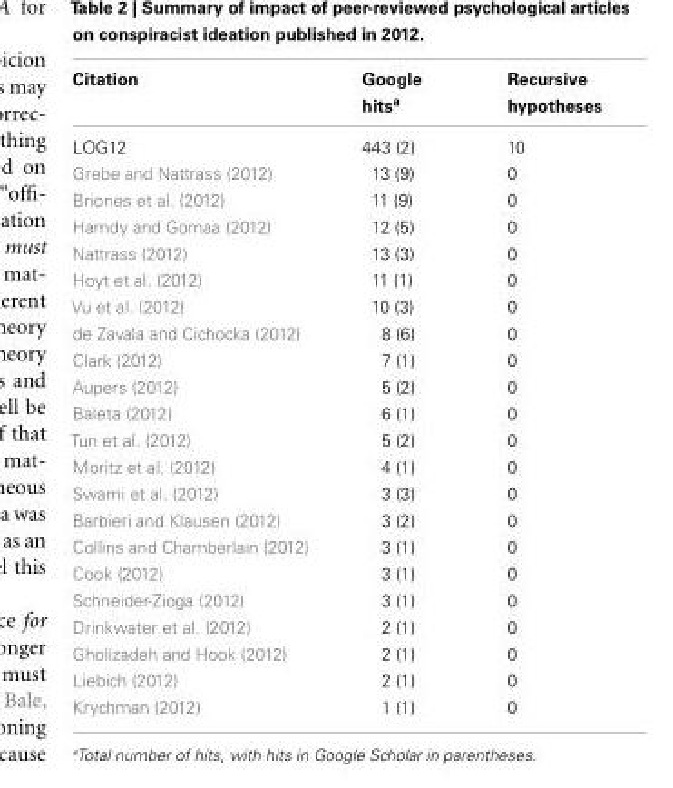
<table><thead><tr><td>Citation</td><td>Google hitsa</td><td>Recursive hypotheses</td></tr></thead><tbody><tr><td>LOG12</td><td>443 (2)</td><td>10</td></tr><tr><td>Grebe and Nattrass (2012)</td><td>13 (9)</td><td>0</td></tr><tr><td>Briones et al. (2012)</td><td>11 (9)</td><td>0</td></tr><tr><td>Hamdy and Gomaa (2012)</td><td>12 (5)</td><td>0</td></tr><tr><td>Nattrass (2012)</td><td>13 (3)</td><td>0</td></tr><tr><td>Hoyt et al. (2012)</td><td>11 (1)</td><td>0</td></tr><tr><td>Vu et al. (2012)</td><td>10 (3)</td><td>0</td></tr><tr><td>de Zavala and Cichocka (2012)</td><td>8 (6)</td><td>0</td></tr><tr><td>Clark (2012)</td><td>7 (1)</td><td>0</td></tr><tr><td>Aupers (2012)</td><td>5 (2)</td><td>0</td></tr><tr><td>Baleta (2012)</td><td>6 (1)</td><td>0</td></tr><tr><td>Tun et al. (2012)</td><td>5 (2)</td><td>0</td></tr><tr><td>Moritz et al. (2012)</td><td>4 (1)</td><td>0</td></tr><tr><td>Swami et al. (2012)</td><td>3 (3)</td><td>0</td></tr><tr><td>Barbieri and Klausen (2012)</td><td>3 (2)</td><td>0</td></tr><tr><td>Collins and Chamberlain (2012)</td><td>3 (1)</td><td>0</td></tr><tr><td>Cook (2012)</td><td>3 (1)</td><td>0</td></tr><tr><td>Schneider-Zioga (2012)</td><td>3 (1)</td><td>0</td></tr><tr><td>Drinkwater et al. (2012)</td><td>2 (1)</td><td>0</td></tr><tr><td>Gholizadeh and Hook (2012)</td><td>2 (1)</td><td>0</td></tr><tr><td>Liebich (2012)</td><td>2 (1)</td><td>0</td></tr><tr><td>Krychman (2012)</td><td>1 (1)</td><td>0</td></tr></tbody></table>